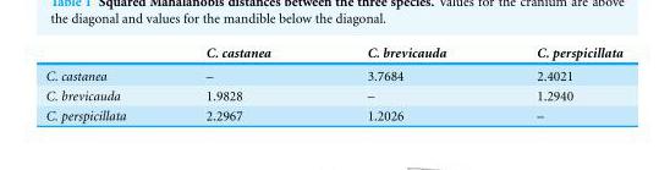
<table><thead><tr><td></td><td>C. castanea</td><td>C. brevicauda</td><td>C. perspicillata</td></tr></thead><tbody><tr><td>C. castanea</td><td>–</td><td>3.7684</td><td>2.4021</td></tr><tr><td>C. brevicauda</td><td>1.9828</td><td>–</td><td>1.2940</td></tr><tr><td>C. perspicillata</td><td>2.2967</td><td>1.2026</td><td>–</td></tr></tbody></table>